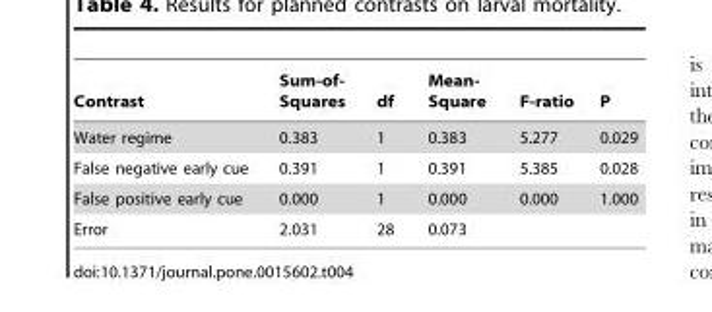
<table><thead><tr><td>Contrast</td><td>Sum-of- Squares</td><td>df</td><td>Mean- Square</td><td>F-ratio</td><td>P</td></tr></thead><tbody><tr><td>Water regime</td><td>0.383</td><td>1</td><td>0.383</td><td>5.277</td><td>0.029</td></tr><tr><td>False negative early cue</td><td>0.391</td><td>1</td><td>0.391</td><td>5.385</td><td>0.028</td></tr><tr><td>False positive early cue</td><td>0.000</td><td>1</td><td>0.000</td><td>0.000</td><td>1.000</td></tr><tr><td>Error</td><td>2.031</td><td>28</td><td>0.073</td><td></td><td></td></tr></tbody></table>